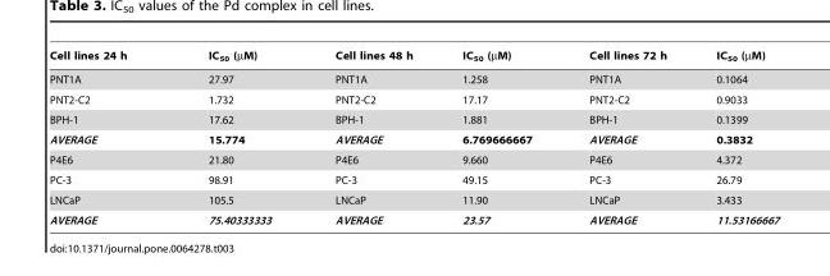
<table><thead><tr><td>Cell lines 24 h</td><td>IC<sub>50</sub> (µM)</td><td>Cell lines 48 h</td><td>IC<sub>50</sub> (µM)</td><td>Cell lines 72 h</td><td>IC<sub>50</sub> (µM)</td></tr></thead><tbody><tr><td>PNT1A</td><td>27.97</td><td>PNT1A</td><td>1.258</td><td>PNT1A</td><td>0.1064</td></tr><tr><td>PNT2-C2</td><td>1.732</td><td>PNT2-C2</td><td>17.17</td><td>PNT2-C2</td><td>0.9033</td></tr><tr><td>BPH-1</td><td>17.62</td><td>BPH-1</td><td>1.881</td><td>BPH-1</td><td>0.1399</td></tr><tr><td>AVERAGE</td><td>15.774</td><td>AVERAGE</td><td>6.769666667</td><td>AVERAGE</td><td>0.3832</td></tr><tr><td>P4E6</td><td>21.80</td><td>P4E6</td><td>9.660</td><td>P4E6</td><td>4.372</td></tr><tr><td>PC-3</td><td>98.91</td><td>PC-3</td><td>49.15</td><td>PC-3</td><td>26.79</td></tr><tr><td>LNCaP</td><td>105.5</td><td>LNCaP</td><td>11.90</td><td>LNCaP</td><td>3.433</td></tr><tr><td>AVERAGE</td><td>75.40333333</td><td>AVERAGE</td><td>23.57</td><td>AVERAGE</td><td>11.53166667</td></tr></tbody></table>